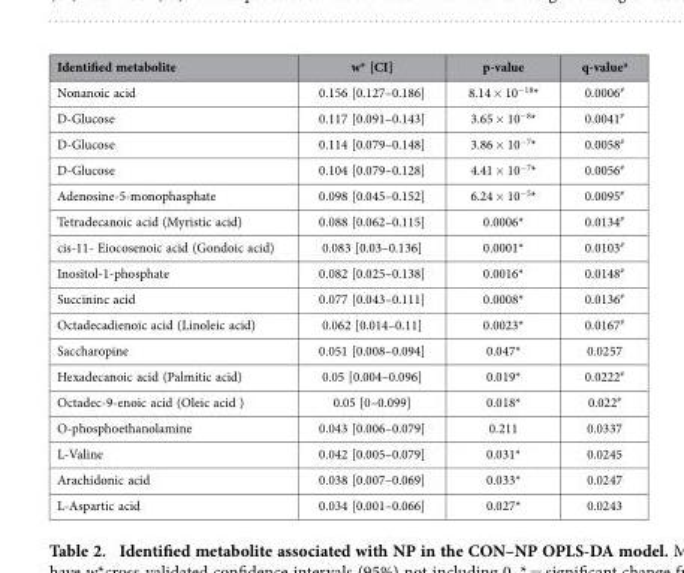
<table><thead><tr><td>Identified metabolite</td><td>w* [CI]</td><td>p-value</td><td>q-value<sup>a</sup></td></tr></thead><tbody><tr><td>Nonanoic acid</td><td>0.156 [0.127–0.186]</td><td>8.14 × 10<sup>−18</sup>*</td><td>0.0006<sup>#</sup></td></tr><tr><td>D-Glucose</td><td>0.117 [0.091–0.143]</td><td>3.65 × 10<sup>−8</sup>*</td><td>0.0041<sup>#</sup></td></tr><tr><td>D-Glucose</td><td>0.114 [0.079–0.148]</td><td>3.86 × 10<sup>−7</sup>*</td><td>0.0058<sup>#</sup></td></tr><tr><td>D-Glucose</td><td>0.104 [0.079–0.128]</td><td>4.41 × 10<sup>−7</sup>*</td><td>0.0056<sup>#</sup></td></tr><tr><td>Adenosine-5-monophasphate</td><td>0.098 [0.045–0.152]</td><td>6.24 × 10<sup>−5</sup>*</td><td>0.0095<sup>#</sup></td></tr><tr><td>Tetradecanoic acid (Myristic acid)</td><td>0.088 [0.062–0.115]</td><td>0.0006*</td><td>0.0134<sup>#</sup></td></tr><tr><td>cis-11- Eiocosenoic acid (Gondoic acid)</td><td>0.083 [0.03–0.136]</td><td>0.0001*</td><td>0.0103<sup>#</sup></td></tr><tr><td>Inositol-1-phosphate</td><td>0.082 [0.025–0.138]</td><td>0.0016*</td><td>0.0148<sup>#</sup></td></tr><tr><td>Succininc acid</td><td>0.077 [0.043–0.111]</td><td>0.0008*</td><td>0.0136<sup>#</sup></td></tr><tr><td>Octadecadienoic acid (Linoleic acid)</td><td>0.062 [0.014–0.11]</td><td>0.0023*</td><td>0.0167<sup>#</sup></td></tr><tr><td>Saccharopine</td><td>0.051 [0.008–0.094]</td><td>0.047*</td><td>0.0257</td></tr><tr><td>Hexadecanoic acid (Palmitic acid)</td><td>0.05 [0.004–0.096]</td><td>0.019*</td><td>0.0222<sup>#</sup></td></tr><tr><td>Octadec-9-enoic acid (Oleic acid )</td><td>0.05 [0–0.099]</td><td>0.018*</td><td>0.022<sup>#</sup></td></tr><tr><td>O-phosphoethanolamine</td><td>0.043 [0.006–0.079]</td><td>0.211</td><td>0.0337</td></tr><tr><td>L-Valine</td><td>0.042 [0.005–0.079]</td><td>0.031*</td><td>0.0245</td></tr><tr><td>Arachidonic acid</td><td>0.038 [0.007–0.069]</td><td>0.033*</td><td>0.0247</td></tr><tr><td>L-Aspartic acid</td><td>0.034 [0.001–0.066]</td><td>0.027*</td><td>0.0243</td></tr></tbody></table>